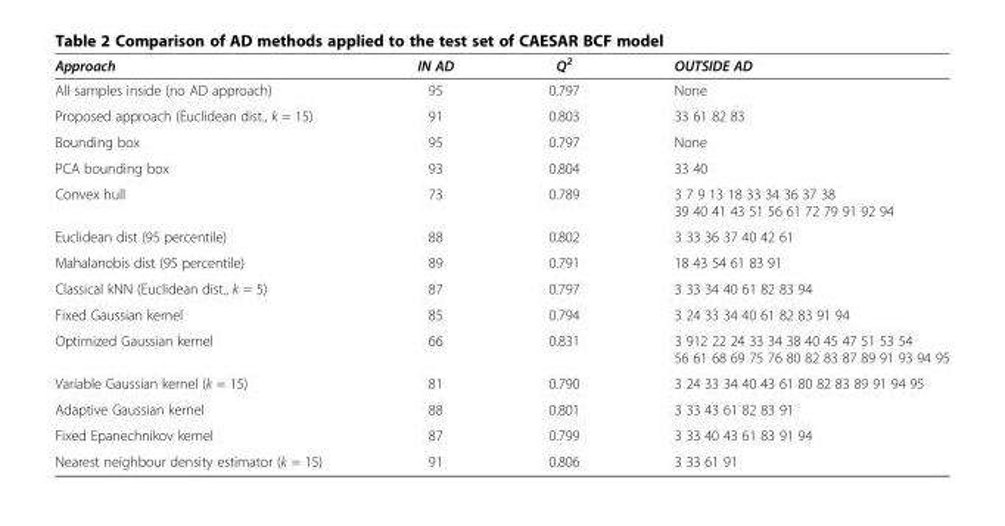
<table><thead><tr><td>Approach</td><td>IN AD</td><td>Q<sup>2</sup></td><td>OUTSIDE AD</td></tr></thead><tbody><tr><td>All samples inside (no AD approach)</td><td>95</td><td>0.797</td><td>None</td></tr><tr><td>Proposed approach (Euclidean dist., k = 15)</td><td>91</td><td>0.803</td><td>33 61 82 83</td></tr><tr><td>Bounding box</td><td>95</td><td>0.797</td><td>None</td></tr><tr><td>PCA bounding box</td><td>93</td><td>0.804</td><td>33 40</td></tr><tr><td>Convex hull</td><td>73</td><td>0.789</td><td>3 7 9 13 18 33 34 36 37 38 39 40 41 43 51 56 61 72 79 91 92 94</td></tr><tr><td>Euclidean dist (95 percentile)</td><td>88</td><td>0.802</td><td>3 33 36 37 40 42 61</td></tr><tr><td>Mahalanobis dist (95 percentile)</td><td>89</td><td>0.791</td><td>18 43 54 61 83 91</td></tr><tr><td>Classical kNN (Euclidean dist., k = 5)</td><td>87</td><td>0.797</td><td>3 33 34 40 61 82 83 94</td></tr><tr><td>Fixed Gaussian kernel</td><td>85</td><td>0.794</td><td>3 24 33 34 40 61 82 83 91 94</td></tr><tr><td>Optimized Gaussian kernel</td><td>66</td><td>0.831</td><td>3 912 22 24 33 34 38 40 45 47 51 53 54 56 61 68 69 75 76 80 82 83 87 89 91 93 94 95</td></tr><tr><td>Variable Gaussian kernel (k = 15)</td><td>81</td><td>0.790</td><td>3 24 33 34 40 43 61 80 82 83 89 91 94 95</td></tr><tr><td>Adaptive Gaussian kernel</td><td>88</td><td>0.801</td><td>3 33 43 61 82 83 91</td></tr><tr><td>Fixed Epanechnikov kernel</td><td>87</td><td>0.799</td><td>3 33 40 43 61 83 91 94</td></tr><tr><td>Nearest neighbour density estimator (k = 15)</td><td>91</td><td>0.806</td><td>3 33 61 91</td></tr></tbody></table>